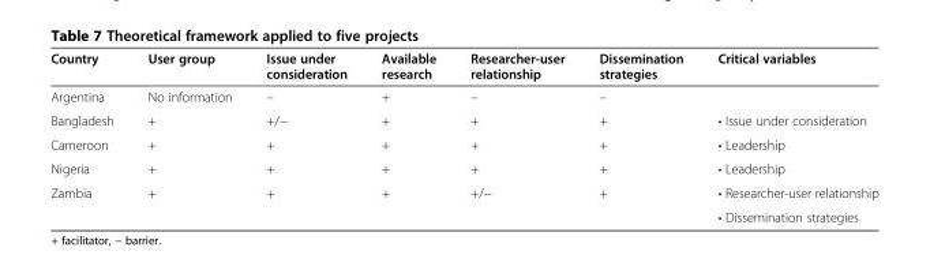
<table><thead><tr><td>Country</td><td>User group</td><td>Issue under consideration</td><td>Available research</td><td>Researcher-user relationship</td><td>Dissemination strategies</td><td>Critical variables</td></tr></thead><tbody><tr><td>Argentina</td><td>No information</td><td>–</td><td>+</td><td>–</td><td>–</td><td></td></tr><tr><td>Bangladesh</td><td>+</td><td>+/−</td><td>+</td><td>+</td><td>+</td><td>• Issue under consideration</td></tr><tr><td>Cameroon</td><td>+</td><td>+</td><td>+</td><td>+</td><td>+</td><td>• Leadership</td></tr><tr><td>Nigeria</td><td>+</td><td>+</td><td>+</td><td>+</td><td>+</td><td>• Leadership</td></tr><tr><td rowspan="2">Zambia</td><td rowspan="2">+</td><td rowspan="2">+</td><td rowspan="2">+</td><td rowspan="2">+/−</td><td rowspan="2">+</td><td>• Researcher-user relationship</td></tr><tr><td>• Dissemination strategies</td></tr></tbody></table>